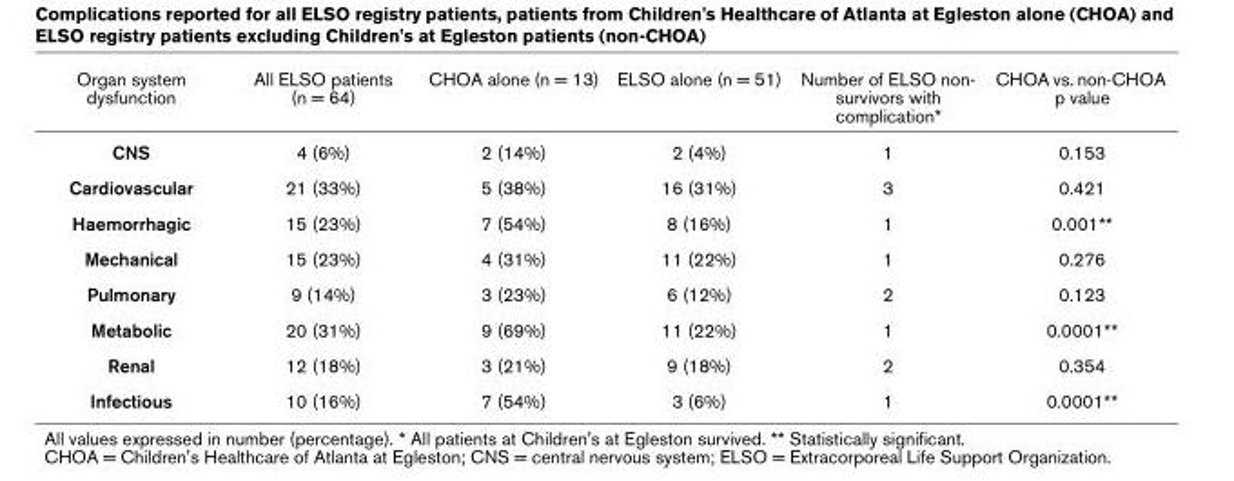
<table><thead><tr><td>Organ system dysfunction</td><td>All ELSO patients (n = 64)</td><td>CHOA alone (n = 13)</td><td>ELSO alone (n = 51)</td><td>Number of ELSO non- survivors with complication*</td><td>CHOA vs. non-CHOA p value</td></tr></thead><tbody><tr><td>CNS</td><td>4 (6%)</td><td>2 (14%)</td><td>2 (4%)</td><td>1</td><td>0.153</td></tr><tr><td>Cardiovascular</td><td>21 (33%)</td><td>5 (38%)</td><td>16 (31%)</td><td>3</td><td>0.421</td></tr><tr><td>Haemorrhagic</td><td>15 (23%)</td><td>7 (54%)</td><td>8 (16%)</td><td>1</td><td>0.001**</td></tr><tr><td>Mechanical</td><td>15 (23%)</td><td>4 (31%)</td><td>11 (22%)</td><td>1</td><td>0.276</td></tr><tr><td>Pulmonary</td><td>9 (14%)</td><td>3 (23%)</td><td>6 (12%)</td><td>2</td><td>0.123</td></tr><tr><td>Metabolic</td><td>20 (31%)</td><td>9 (69%)</td><td>11 (22%)</td><td>1</td><td>0.0001**</td></tr><tr><td>Renal</td><td>12 (18%)</td><td>3 (21%)</td><td>9 (18%)</td><td>2</td><td>0.354</td></tr><tr><td>Infectious</td><td>10 (16%)</td><td>7 (54%)</td><td>3 (6%)</td><td>1</td><td>0.0001**</td></tr></tbody></table>